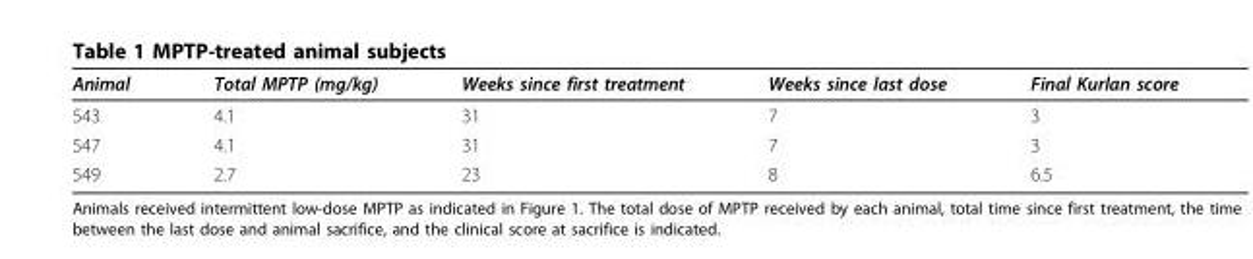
<table><thead><tr><td>Animal</td><td>Total MPTP (mg/kg)</td><td>Weeks since first treatment</td><td>Weeks since last dose</td><td>Final Kurlan score</td></tr></thead><tbody><tr><td>543</td><td>4.1</td><td>31</td><td>7</td><td>3</td></tr><tr><td>547</td><td>4.1</td><td>31</td><td>7</td><td>3</td></tr><tr><td>549</td><td>2.7</td><td>23</td><td>8</td><td>6.5</td></tr></tbody></table>